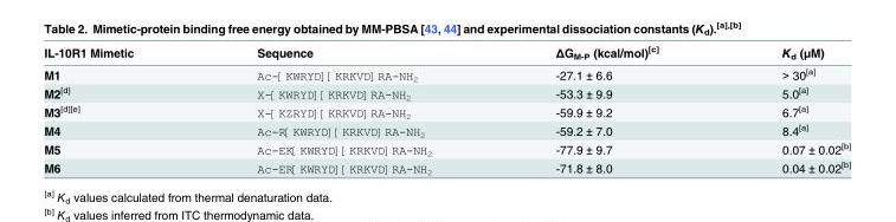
<table><thead><tr><td>IL-10R1 Mimetic</td><td>Sequence</td><td>ΔG<sub>M-P</sub> (kcal/mol)<sup>[c]</sup></td><td>K<sub>d</sub> (μM)</td></tr></thead><tbody><tr><td>M1</td><td>Ac-[KWRYD][KRKVD]RA-NH<sub>2</sub></td><td>-27.1 ± 6.6</td><td>&gt; 30<sup>[a]</sup></td></tr><tr><td>M2<sup>[d]</sup></td><td>X-[KWRYD][KRKVD]RA-NH<sub>2</sub></td><td>-53.3 ± 9.9</td><td>5.0<sup>[a]</sup></td></tr><tr><td>M3<sup>[d][e]</sup></td><td>X-[KZRYD][KRKVD]RA-NH<sub>2</sub></td><td>-59.9 ± 9.2</td><td>6.7<sup>[a]</sup></td></tr><tr><td>M4</td><td>Ac-R[KWRYD][KRKVD]RA-NH<sub>2</sub></td><td>-59.2 ± 7.0</td><td>8.4<sup>[a]</sup></td></tr><tr><td>M5</td><td>Ac-EK[KWRYD][KRKVD]RA-NH<sub>2</sub></td><td>-77.9 ± 9.7</td><td>0.07 ± 0.02<sup>[b]</sup></td></tr><tr><td>M6</td><td>Ac-ER[KWRYD][KRKVD]RA-NH<sub>2</sub></td><td>-71.8 ± 8.0</td><td>0.04 ± 0.02<sup>[b]</sup></td></tr></tbody></table>